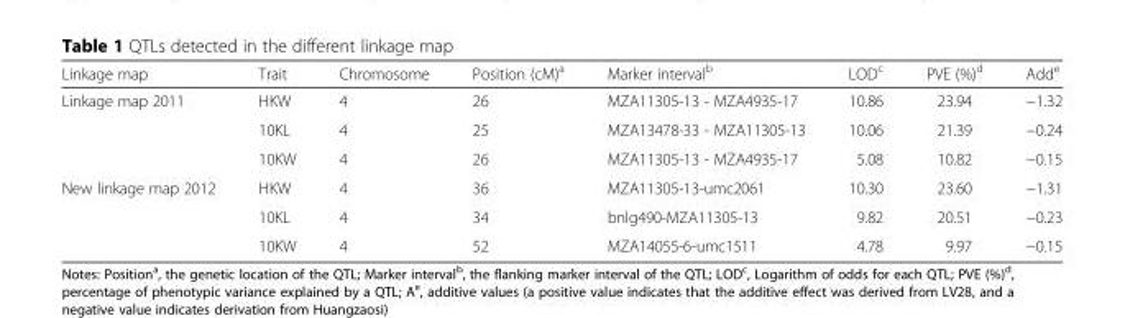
<table><thead><tr><td>Linkage map</td><td>Trait</td><td>Chromosome</td><td>Position (cM)<sup>a</sup></td><td>Marker interval<sup>b</sup></td><td>LOD<sup>c</sup></td><td>PVE (%)<sup>d</sup></td><td>Add<sup>e</sup></td></tr></thead><tbody><tr><td rowspan="3">Linkage map 2011</td><td>HKW</td><td>4</td><td>26</td><td>MZA11305-13 - MZA4935-17</td><td>10.86</td><td>23.94</td><td>−1.32</td></tr><tr><td>10KL</td><td>4</td><td>25</td><td>MZA13478-33 - MZA11305-13</td><td>10.06</td><td>21.39</td><td>−0.24</td></tr><tr><td>10KW</td><td>4</td><td>26</td><td>MZA11305-13 - MZA4935-17</td><td>5.08</td><td>10.82</td><td>−0.15</td></tr><tr><td rowspan="3">New linkage map 2012</td><td>HKW</td><td>4</td><td>36</td><td>MZA11305-13-umc2061</td><td>10.30</td><td>23.60</td><td>−1.31</td></tr><tr><td>10KL</td><td>4</td><td>34</td><td>bnlg490-MZA11305-13</td><td>9.82</td><td>20.51</td><td>−0.23</td></tr><tr><td>10KW</td><td>4</td><td>52</td><td>MZA14055-6-umc1511</td><td>4.78</td><td>9.97</td><td>−0.15</td></tr></tbody></table>